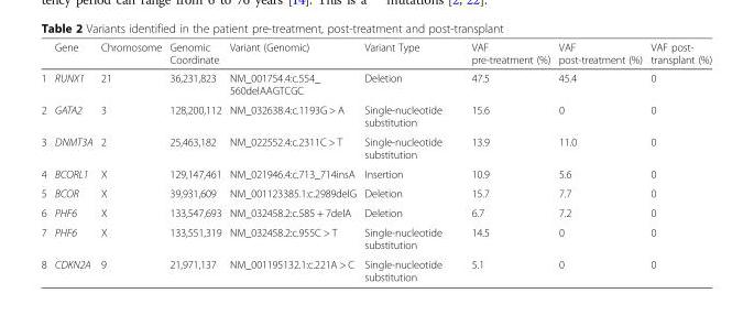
<table><thead><tr><td></td><td>Gene</td><td>Chromosome</td><td>Genomic Coordinate</td><td>Variant (Genomic)</td><td>Variant Type</td><td>VAF pre-treatment (%)</td><td>VAF post-treatment (%)</td><td>VAF post- transplant (%)</td></tr></thead><tbody><tr><td>1</td><td>RUNX1</td><td>21</td><td>36,231,823</td><td>NM_001754.4:c.554_ 560delAAGTCGC</td><td>Deletion</td><td>47.5</td><td>45.4</td><td>0</td></tr><tr><td>2</td><td>GATA2</td><td>3</td><td>128,200,112</td><td>NM_032638.4:c.1193G &gt; A</td><td>Single-nucleotide substitution</td><td>15.6</td><td>0</td><td>0</td></tr><tr><td>3</td><td>DNMT3A</td><td>2</td><td>25,463,182</td><td>NM_022552.4:c.2311C &gt; T</td><td>Single-nucleotide substitution</td><td>13.9</td><td>11.0</td><td>0</td></tr><tr><td>4</td><td>BCORL1</td><td>X</td><td>129,147,461</td><td>NM_021946.4:c.713_714insA</td><td>Insertion</td><td>10.9</td><td>5.6</td><td>0</td></tr><tr><td>5</td><td>BCOR</td><td>X</td><td>39,931,609</td><td>NM_001123385.1:c.2989delG</td><td>Deletion</td><td>15.7</td><td>7.7</td><td>0</td></tr><tr><td>6</td><td>PHF6</td><td>X</td><td>133,547,693</td><td>NM_032458.2:c.585 + 7delA</td><td>Deletion</td><td>6.7</td><td>7.2</td><td>0</td></tr><tr><td>7</td><td>PHF6</td><td>X</td><td>133,551,319</td><td>NM_032458.2:c.955C &gt; T</td><td>Single-nucleotide substitution</td><td>14.5</td><td>0</td><td>0</td></tr><tr><td>8</td><td>CDKN2A</td><td>9</td><td>21,971,137</td><td>NM_001195132.1:c.221A &gt; C</td><td>Single-nucleotide substitution</td><td>5.1</td><td>0</td><td>0</td></tr></tbody></table>